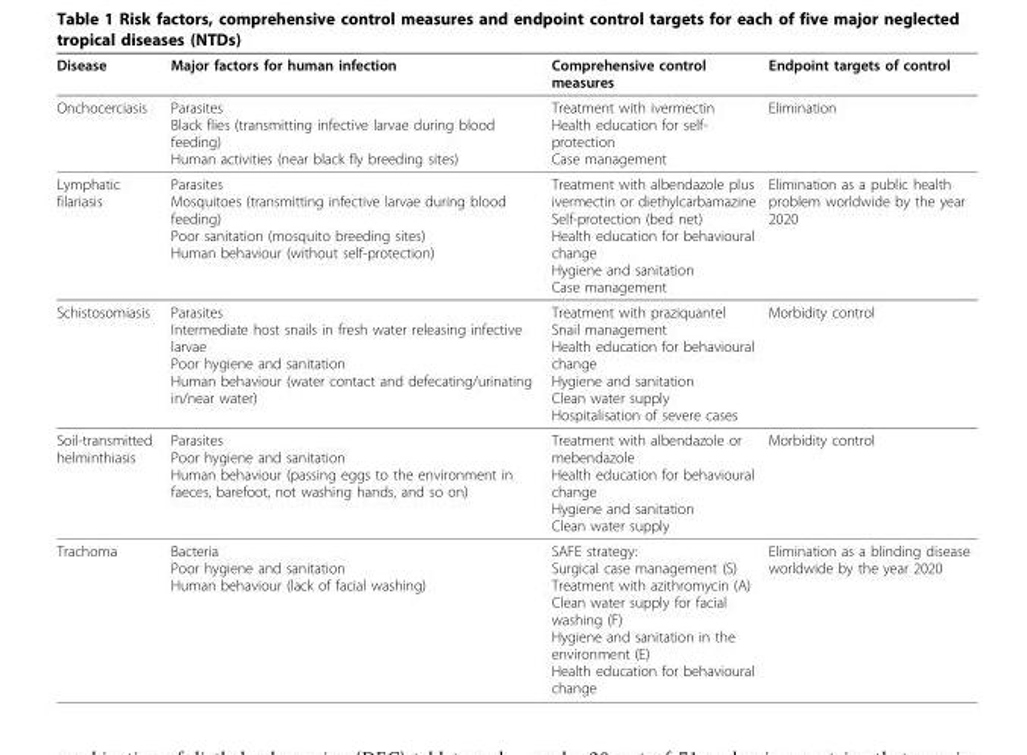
<table><thead><tr><td>Disease</td><td>Major factors for human infection</td><td>Comprehensive control measures</td><td>Endpoint targets of control</td></tr></thead><tbody><tr><td>Onchocerciasis</td><td>Parasites Black flies (transmitting infective larvae during blood feeding) Human activities (near black fly breeding sites)</td><td>Treatment with ivermectin Health education for self- protection Case management</td><td>Elimination</td></tr><tr><td>Lymphatic filariasis</td><td>Parasites Mosquitoes (transmitting infective larvae during blood feeding) Poor sanitation (mosquito breeding sites) Human behaviour (without self-protection)</td><td>Treatment with albendazole plus ivermectin or diethylcarbamazine Self-protection (bed net) Health education for behavioural change Hygiene and sanitation Case management</td><td>Elimination as a public health problem worldwide by the year 2020</td></tr><tr><td>Schistosomiasis</td><td>Parasites Intermediate host snails in fresh water releasing infective larvae Poor hygiene and sanitation Human behaviour (water contact and defecating/urinating in/near water)</td><td>Treatment with praziquantel Snail management Health education for behavioural change Hygiene and sanitation Clean water supply Hospitalisation of severe cases</td><td>Morbidity control</td></tr><tr><td>Soil-transmitted helminthiasis</td><td>Parasites Poor hygiene and sanitation Human behaviour (passing eggs to the environment in faeces, barefoot, not washing hands, and so on)</td><td>Treatment with albendazole or mebendazole Health education for behavioural change Hygiene and sanitation Clean water supply</td><td>Morbidity control</td></tr><tr><td>Trachoma</td><td>Bacteria Poor hygiene and sanitation Human behaviour (lack of facial washing)</td><td>SAFE strategy: Surgical case management (S) Treatment with azithromycin (A) Clean water supply for facial washing (F) Hygiene and sanitation in the environment (E) Health education for behavioural change</td><td>Elimination as a blinding disease worldwide by the year 2020</td></tr></tbody></table>